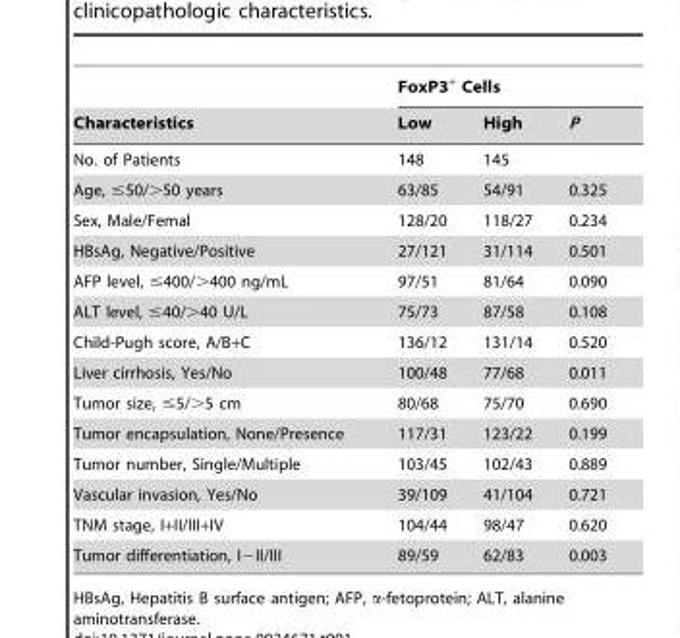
<table><thead><tr><td rowspan="2">Characteristics</td><td colspan="3">FoxP3<sup>+</sup> Cells</td></tr><tr><td>Low</td><td>High</td><td>P</td></tr></thead><tbody><tr><td>No. of Patients</td><td>148</td><td>145</td><td></td></tr><tr><td>Age, ≤50/&gt;50 years</td><td>63/85</td><td>54/91</td><td>0.325</td></tr><tr><td>Sex, Male/Femal</td><td>128/20</td><td>118/27</td><td>0.234</td></tr><tr><td>HBsAg, Negative/Positive</td><td>27/121</td><td>31/114</td><td>0.501</td></tr><tr><td>AFP level, ≤400/&gt;400 ng/mL</td><td>97/51</td><td>81/64</td><td>0.090</td></tr><tr><td>ALT level, ≤40/&gt;40 U/L</td><td>75/73</td><td>87/58</td><td>0.108</td></tr><tr><td>Child-Pugh score, A/B+C</td><td>136/12</td><td>131/14</td><td>0.520</td></tr><tr><td>Liver cirrhosis, Yes/No</td><td>100/48</td><td>77/68</td><td>0.011</td></tr><tr><td>Tumor size, ≤5/&gt;5 cm</td><td>80/68</td><td>75/70</td><td>0.690</td></tr><tr><td>Tumor encapsulation, None/Presence</td><td>117/31</td><td>123/22</td><td>0.199</td></tr><tr><td>Tumor number, Single/Multiple</td><td>103/45</td><td>102/43</td><td>0.889</td></tr><tr><td>Vascular invasion, Yes/No</td><td>39/109</td><td>41/104</td><td>0.721</td></tr><tr><td>TNM stage, I+II/III+IV</td><td>104/44</td><td>98/47</td><td>0.620</td></tr><tr><td>Tumor differentiation, I−II/III</td><td>89/59</td><td>62/83</td><td>0.003</td></tr></tbody></table>